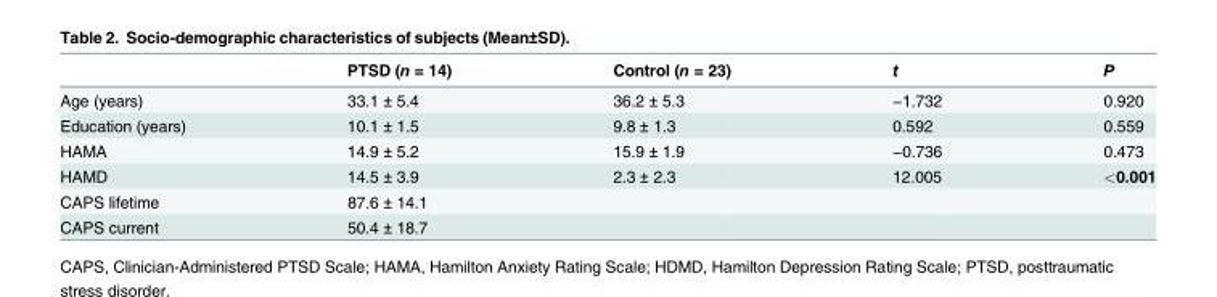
<table><thead><tr><td></td><td>PTSD (n = 14)</td><td>Control (n = 23)</td><td>t</td><td>P</td></tr></thead><tbody><tr><td>Age (years)</td><td>33.1 ± 5.4</td><td>36.2 ± 5.3</td><td>−1.732</td><td>0.920</td></tr><tr><td>Education (years)</td><td>10.1 ± 1.5</td><td>9.8 ± 1.3</td><td>0.592</td><td>0.559</td></tr><tr><td>HAMA</td><td>14.9 ± 5.2</td><td>15.9 ± 1.9</td><td>−0.736</td><td>0.473</td></tr><tr><td>HAMD</td><td>14.5 ± 3.9</td><td>2.3 ± 2.3</td><td>12.005</td><td>&lt;0.001</td></tr><tr><td>CAPS lifetime</td><td>87.6 ± 14.1</td><td></td><td></td><td></td></tr><tr><td>CAPS current</td><td>50.4 ± 18.7</td><td></td><td></td><td></td></tr></tbody></table>